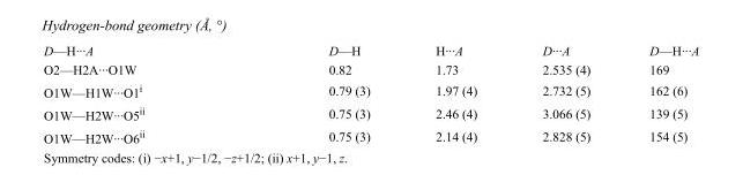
<table><tbody><tr><td>D—H···A</td><td>D—H</td><td>H···A</td><td>D···A</td><td>D—H···A</td></tr><tr><td>O2—H2A···O1W</td><td>0.82</td><td>1.73</td><td>2.535 (4)</td><td>169</td></tr><tr><td>O1W—H1W···O1<sup>i</sup></td><td>0.79 (3)</td><td>1.97 (4)</td><td>2.732 (5)</td><td>162 (6)</td></tr><tr><td>O1W—H2W···O5<sup>ii</sup></td><td>0.75 (3)</td><td>2.46 (4)</td><td>3.066 (5)</td><td>139 (5)</td></tr><tr><td>O1W—H2W···O6<sup>ii</sup></td><td>0.75 (3)</td><td>2.14 (4)</td><td>2.828 (5)</td><td>154 (5)</td></tr></tbody></table>